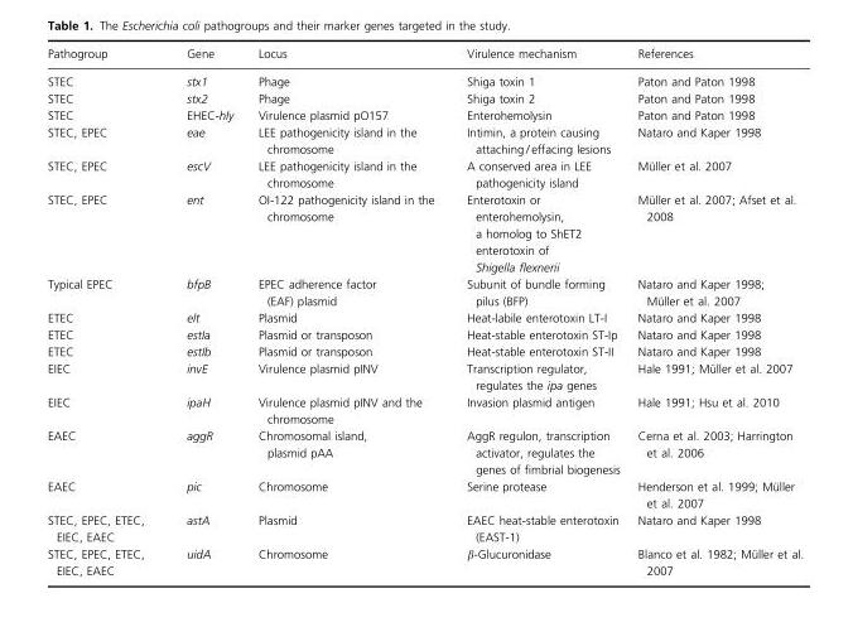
<table><thead><tr><td>Pathogroup</td><td>Gene</td><td>Locus</td><td>Virulence mechanism</td><td>References</td></tr></thead><tbody><tr><td>STEC</td><td>stx1</td><td>Phage</td><td>Shiga toxin 1</td><td>Paton and Paton 1998</td></tr><tr><td>STEC</td><td>stx2</td><td>Phage</td><td>Shiga toxin 2</td><td>Paton and Paton 1998</td></tr><tr><td>STEC</td><td>EHEC-hly</td><td>Virulence plasmid pO157</td><td>Enterohemolysin</td><td>Paton and Paton 1998</td></tr><tr><td>STEC, EPEC</td><td>eae</td><td>LEE pathogenicity island in the chromosome</td><td>Intimin, a protein causing attaching / effacing lesions</td><td>Nataro and Kaper 1998</td></tr><tr><td>STEC, EPEC</td><td>escV</td><td>LEE pathogenicity island in the chromosome</td><td>A conserved area in LEE pathogenicity island</td><td>Mu¨ ller et al. 2007</td></tr><tr><td>STEC, EPEC</td><td>ent</td><td>OI-122 pathogenicity island in the chromosome</td><td>Enterotoxin or enterohemolysin, a homolog to ShET2 enterotoxin of Shigella flexnerii</td><td>Mu¨ ller et al. 2007; Afset et al. 2008</td></tr><tr><td>Typical EPEC</td><td>bfpB</td><td>EPEC adherence factor (EAF) plasmid</td><td>Subunit of bundle forming pilus (BFP)</td><td>Nataro and Kaper 1998; Mu¨ ller et al. 2007</td></tr><tr><td>ETEC</td><td>elt</td><td>Plasmid</td><td>Heat-labile enterotoxin LT-I</td><td>Nataro and Kaper 1998</td></tr><tr><td>ETEC</td><td>estIa</td><td>Plasmid or transposon</td><td>Heat-stable enterotoxin ST-Ip</td><td>Nataro and Kaper 1998</td></tr><tr><td>ETEC</td><td>estIb</td><td>Plasmid or transposon</td><td>Heat-stable enterotoxin ST-II</td><td>Nataro and Kaper 1998</td></tr><tr><td>EIEC</td><td>invE</td><td>Virulence plasmid pINV</td><td>Transcription regulator, regulates the ipa genes</td><td>Hale 1991; Mu¨ ller et al. 2007</td></tr><tr><td>EIEC</td><td>ipaH</td><td>Virulence plasmid pINV and the chromosome</td><td>Invasion plasmid antigen</td><td>Hale 1991; Hsu et al. 2010</td></tr><tr><td>EAEC</td><td>aggR</td><td>Chromosomal island, plasmid pAA</td><td>AggR regulon, transcription activator, regulates the genes of fimbrial biogenesis</td><td>Cerna et al. 2003; Harrington et al. 2006</td></tr><tr><td>EAEC</td><td>pic</td><td>Chromosome</td><td>Serine protease</td><td>Henderson et al. 1999; Mu¨ ller et al. 2007</td></tr><tr><td>STEC, EPEC, ETEC, EIEC, EAEC</td><td>astA</td><td>Plasmid</td><td>EAEC heat-stable enterotoxin (EAST-1)</td><td>Nataro and Kaper 1998</td></tr><tr><td>STEC, EPEC, ETEC, EIEC, EAEC</td><td>uidA</td><td>Chromosome</td><td>β-Glucuronidase</td><td>Blanco et al. 1982; Mu¨ ller et al. 2007</td></tr></tbody></table>